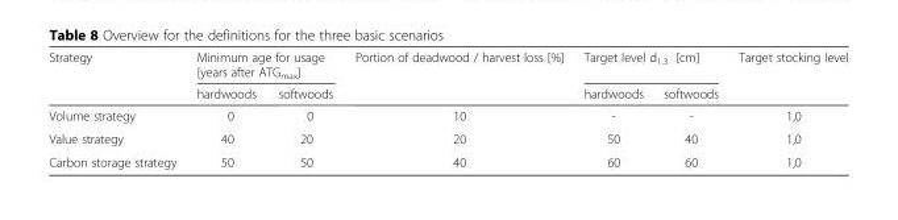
<table><thead><tr><td rowspan="2">Strategy</td><td colspan="2">Minimum age for usage [years after ATG<sub>max</sub>]</td><td rowspan="2">Portion of deadwood / harvest loss [%]</td><td colspan="2">Target level d<sub>1.3</sub> [cm]</td><td rowspan="2">Target stocking level</td></tr><tr><td>hardwoods</td><td>softwoods</td><td>hardwoods</td><td>softwoods</td></tr></thead><tbody><tr><td>Volume strategy</td><td>0</td><td>0</td><td>10</td><td>-</td><td>-</td><td>1,0</td></tr><tr><td>Value strategy</td><td>40</td><td>20</td><td>20</td><td>50</td><td>40</td><td>1,0</td></tr><tr><td>Carbon storage strategy</td><td>50</td><td>50</td><td>40</td><td>60</td><td>60</td><td>1,0</td></tr></tbody></table>